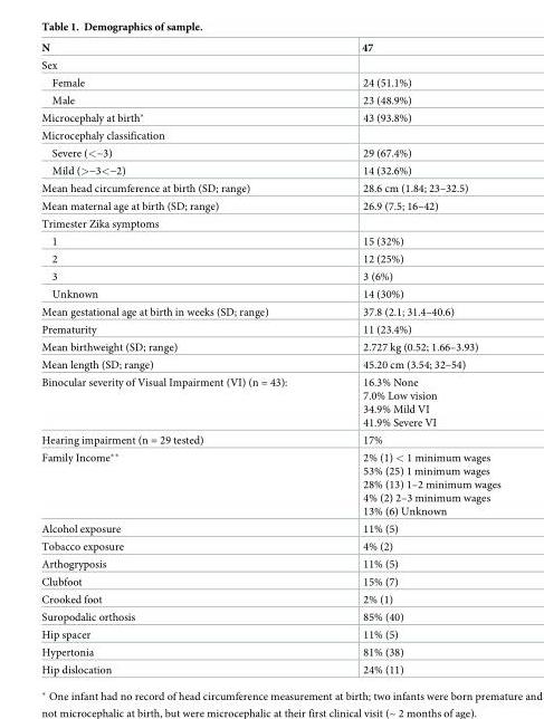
<table><thead><tr><td>N</td><td>47</td></tr></thead><tbody><tr><td colspan="2">Sex</td></tr><tr><td>Female</td><td>24 (51.1%)</td></tr><tr><td>Male</td><td>23 (48.9%)</td></tr><tr><td>Microcephaly at birth*</td><td>43 (93.8%)</td></tr><tr><td colspan="2">Microcephaly classification</td></tr><tr><td>Severe (&lt;−3)</td><td>29 (67.4%)</td></tr><tr><td>Mild (&gt;−3&lt;−2)</td><td>14 (32.6%)</td></tr><tr><td>Mean head circumference at birth (SD; range)</td><td>28.6 cm (1.84; 23–32.5)</td></tr><tr><td>Mean maternal age at birth (SD; range)</td><td>26.9 (7.5; 16–42)</td></tr><tr><td colspan="2">Trimester Zika symptoms</td></tr><tr><td>1</td><td>15 (32%)</td></tr><tr><td>2</td><td>12 (25%)</td></tr><tr><td>3</td><td>3 (6%)</td></tr><tr><td>Unknown</td><td>14 (30%)</td></tr><tr><td>Mean gestational age at birth in weeks (SD; range)</td><td>37.8 (2.1; 31.4–40.6)</td></tr><tr><td>Prematurity</td><td>11 (23.4%)</td></tr><tr><td>Mean birthweight (SD; range)</td><td>2.727 kg (0.52; 1.66–3.93)</td></tr><tr><td>Mean length (SD; range)</td><td>45.20 cm (3.54; 32–54)</td></tr><tr><td>Binocular severity of Visual Impairment (VI) (n = 43):</td><td>16.3% None 7.0% Low vision 34.9% Mild VI 41.9% Severe VI</td></tr><tr><td>Hearing impairment (n = 29 tested)</td><td>17%</td></tr><tr><td>Family Income**</td><td>2% (1) &lt; 1 minimum wages 53% (25) 1 minimum wages 28% (13) 1–2 minimum wages 4% (2) 2–3 minimum wages 13% (6) Unknown</td></tr><tr><td>Alcohol exposure</td><td>11% (5)</td></tr><tr><td>Tobacco exposure</td><td>4% (2)</td></tr><tr><td>Arthogryposis</td><td>11% (5)</td></tr><tr><td>Clubfoot</td><td>15% (7)</td></tr><tr><td>Crooked foot</td><td>2% (1)</td></tr><tr><td>Suropodalic orthosis</td><td>85% (40)</td></tr><tr><td>Hip spacer</td><td>11% (5)</td></tr><tr><td>Hypertonia</td><td>81% (38)</td></tr><tr><td>Hip dislocation</td><td>24% (11)</td></tr></tbody></table>